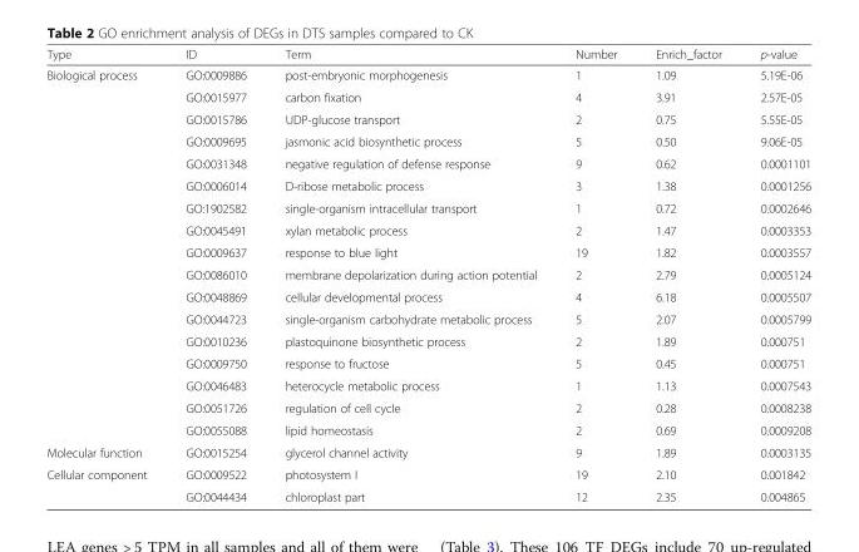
<table><thead><tr><td>Type</td><td>ID</td><td>Term</td><td>Number</td><td>Enrich_factor</td><td>p-value</td></tr></thead><tbody><tr><td rowspan="17">Biological process</td><td>GO:0009886</td><td>post-embryonic morphogenesis</td><td>1</td><td>1.09</td><td>5.19E-06</td></tr><tr><td>GO:0015977</td><td>carbon fixation</td><td>4</td><td>3.91</td><td>2.57E-05</td></tr><tr><td>GO:0015786</td><td>UDP-glucose transport</td><td>2</td><td>0.75</td><td>5.55E-05</td></tr><tr><td>GO:0009695</td><td>jasmonic acid biosynthetic process</td><td>5</td><td>0.50</td><td>9.06E-05</td></tr><tr><td>GO:0031348</td><td>negative regulation of defense response</td><td>9</td><td>0.62</td><td>0.0001101</td></tr><tr><td>GO:0006014</td><td>D-ribose metabolic process</td><td>3</td><td>1.38</td><td>0.0001256</td></tr><tr><td>GO:1902582</td><td>single-organism intracellular transport</td><td>1</td><td>0.72</td><td>0.0002646</td></tr><tr><td>GO:0045491</td><td>xylan metabolic process</td><td>2</td><td>1.47</td><td>0.0003353</td></tr><tr><td>GO:0009637</td><td>response to blue light</td><td>19</td><td>1.82</td><td>0.0003557</td></tr><tr><td>GO:0086010</td><td>membrane depolarization during action potential</td><td>2</td><td>2.79</td><td>0.0005124</td></tr><tr><td>GO:0048869</td><td>cellular developmental process</td><td>4</td><td>6.18</td><td>0.0005507</td></tr><tr><td>GO:0044723</td><td>single-organism carbohydrate metabolic process</td><td>5</td><td>2.07</td><td>0.0005799</td></tr><tr><td>GO:0010236</td><td>plastoquinone biosynthetic process</td><td>2</td><td>1.89</td><td>0.000751</td></tr><tr><td>GO:0009750</td><td>response to fructose</td><td>5</td><td>0.45</td><td>0.000751</td></tr><tr><td>GO:0046483</td><td>heterocycle metabolic process</td><td>1</td><td>1.13</td><td>0.0007543</td></tr><tr><td>GO:0051726</td><td>regulation of cell cycle</td><td>2</td><td>0.28</td><td>0.0008238</td></tr><tr><td>GO:0055088</td><td>lipid homeostasis</td><td>2</td><td>0.69</td><td>0.0009208</td></tr><tr><td>Molecular function</td><td>GO:0015254</td><td>glycerol channel activity</td><td>9</td><td>1.89</td><td>0.0003135</td></tr><tr><td rowspan="2">Cellular component</td><td>GO:0009522</td><td>photosystem I</td><td>19</td><td>2.10</td><td>0.001842</td></tr><tr><td>GO:0044434</td><td>chloroplast part</td><td>12</td><td>2.35</td><td>0.004865</td></tr></tbody></table>